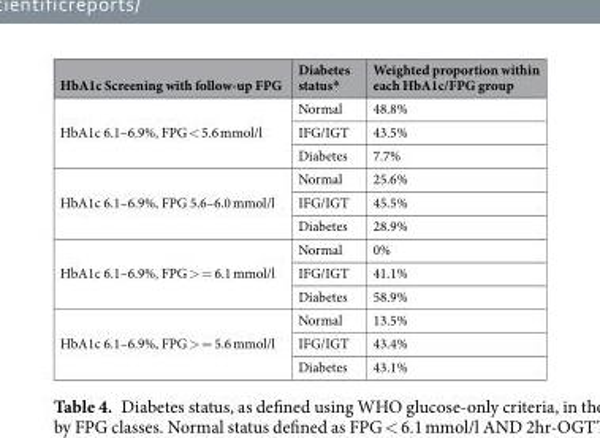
<table><thead><tr><td>HbA1c Screening with follow-up FPG</td><td>Diabetes status*</td><td>Weighted proportion within each HbA1c/FPG group</td></tr></thead><tbody><tr><td rowspan="3">HbA1c 6.1–6.9%, FPG &lt; 5.6 mmol/l</td><td>Normal</td><td>48.8%</td></tr><tr><td>IFG/IGT</td><td>43.5%</td></tr><tr><td>Diabetes</td><td>7.7%</td></tr><tr><td rowspan="3">HbA1c 6.1–6.9%, FPG 5.6–6.0 mmol/l</td><td>Normal</td><td>25.6%</td></tr><tr><td>IFG/IGT</td><td>45.5%</td></tr><tr><td>Diabetes</td><td>28.9%</td></tr><tr><td rowspan="3">HbA1c 6.1–6.9%, FPG &gt; = 6.1 mmol/l</td><td>Normal</td><td>0%</td></tr><tr><td>IFG/IGT</td><td>41.1%</td></tr><tr><td>Diabetes</td><td>58.9%</td></tr><tr><td rowspan="3">HbA1c 6.1–6.9%, FPG &gt; = 5.6 mmol/l</td><td>Normal</td><td>13.5%</td></tr><tr><td>IFG/IGT</td><td>43.4%</td></tr><tr><td>Diabetes</td><td>43.1%</td></tr></tbody></table>